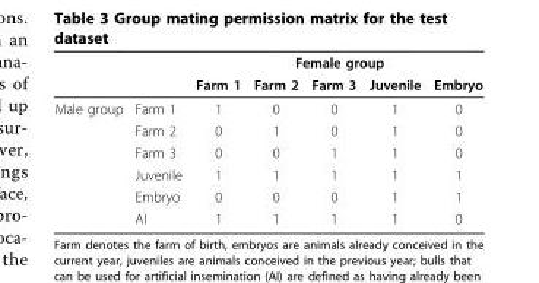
<table><thead><tr><td rowspan="2"></td><td rowspan="2"></td><td colspan="5">Female group</td></tr><tr><td>Farm 1</td><td>Farm 2</td><td>Farm 3</td><td>Juvenile</td><td>Embryo</td></tr></thead><tbody><tr><td rowspan="6">Male group</td><td>Farm 1</td><td>1</td><td>0</td><td>0</td><td>1</td><td>0</td></tr><tr><td>Farm 2</td><td>0</td><td>1</td><td>0</td><td>1</td><td>0</td></tr><tr><td>Farm 3</td><td>0</td><td>0</td><td>1</td><td>1</td><td>0</td></tr><tr><td>Juvenile</td><td>1</td><td>1</td><td>1</td><td>1</td><td>1</td></tr><tr><td>Embryo</td><td>0</td><td>0</td><td>0</td><td>1</td><td>1</td></tr><tr><td>AI</td><td>1</td><td>1</td><td>1</td><td>1</td><td>0</td></tr></tbody></table>